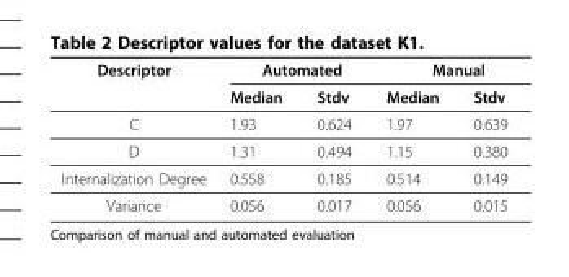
<table><thead><tr><td rowspan="2">Descriptor</td><td colspan="2">Automated</td><td colspan="2">Manual</td></tr><tr><td>Median</td><td>Stdv</td><td>Median</td><td>Stdv</td></tr></thead><tbody><tr><td>C</td><td>1.93</td><td>0.624</td><td>1.97</td><td>0.639</td></tr><tr><td>D</td><td>1.31</td><td>0.494</td><td>1.15</td><td>0.380</td></tr><tr><td>Internalization Degree</td><td>0.558</td><td>0.185</td><td>0.514</td><td>0.149</td></tr><tr><td>Variance</td><td>0.056</td><td>0.017</td><td>0.056</td><td>0.015</td></tr></tbody></table>